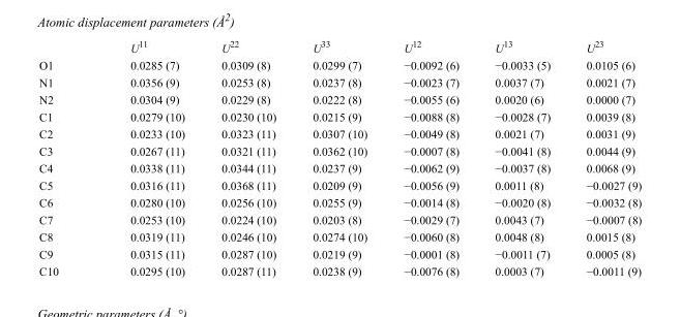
<table><thead><tr><td></td><td>U<sup>11</sup></td><td>U<sup>22</sup></td><td>U<sup>33</sup></td><td>U<sup>12</sup></td><td>U<sup>13</sup></td><td>U<sup>23</sup></td></tr></thead><tbody><tr><td>O1</td><td>0.0285 (7)</td><td>0.0309 (8)</td><td>0.0299 (7)</td><td>−0.0092 (6)</td><td>−0.0033 (5)</td><td>0.0105 (6)</td></tr><tr><td>N1</td><td>0.0356 (9)</td><td>0.0253 (8)</td><td>0.0237 (8)</td><td>−0.0023 (7)</td><td>0.0037 (7)</td><td>0.0021 (7)</td></tr><tr><td>N2</td><td>0.0304 (9)</td><td>0.0229 (8)</td><td>0.0222 (8)</td><td>−0.0055 (6)</td><td>0.0020 (6)</td><td>0.0000 (7)</td></tr><tr><td>C1</td><td>0.0279 (10)</td><td>0.0230 (10)</td><td>0.0215 (9)</td><td>−0.0088 (8)</td><td>−0.0028 (7)</td><td>0.0039 (8)</td></tr><tr><td>C2</td><td>0.0233 (10)</td><td>0.0323 (11)</td><td>0.0307 (10)</td><td>−0.0049 (8)</td><td>0.0021 (7)</td><td>0.0031 (9)</td></tr><tr><td>C3</td><td>0.0267 (11)</td><td>0.0321 (11)</td><td>0.0362 (10)</td><td>−0.0007 (8)</td><td>−0.0041 (8)</td><td>0.0044 (9)</td></tr><tr><td>C4</td><td>0.0338 (11)</td><td>0.0344 (11)</td><td>0.0237 (9)</td><td>−0.0062 (9)</td><td>−0.0037 (8)</td><td>0.0068 (9)</td></tr><tr><td>C5</td><td>0.0316 (11)</td><td>0.0368 (11)</td><td>0.0209 (9)</td><td>−0.0056 (9)</td><td>0.0011 (8)</td><td>−0.0027 (9)</td></tr><tr><td>C6</td><td>0.0280 (10)</td><td>0.0256 (10)</td><td>0.0255 (9)</td><td>−0.0014 (8)</td><td>−0.0020 (8)</td><td>−0.0032 (8)</td></tr><tr><td>C7</td><td>0.0253 (10)</td><td>0.0224 (10)</td><td>0.0203 (8)</td><td>−0.0029 (7)</td><td>0.0043 (7)</td><td>−0.0007 (8)</td></tr><tr><td>C8</td><td>0.0319 (11)</td><td>0.0246 (10)</td><td>0.0274 (10)</td><td>−0.0060 (8)</td><td>0.0048 (8)</td><td>0.0015 (8)</td></tr><tr><td>C9</td><td>0.0315 (11)</td><td>0.0287 (10)</td><td>0.0219 (9)</td><td>−0.0001 (8)</td><td>−0.0011 (7)</td><td>0.0005 (8)</td></tr><tr><td>C10</td><td>0.0295 (10)</td><td>0.0287 (11)</td><td>0.0238 (9)</td><td>−0.0076 (8)</td><td>0.0003 (7)</td><td>−0.0011 (9)</td></tr></tbody></table>